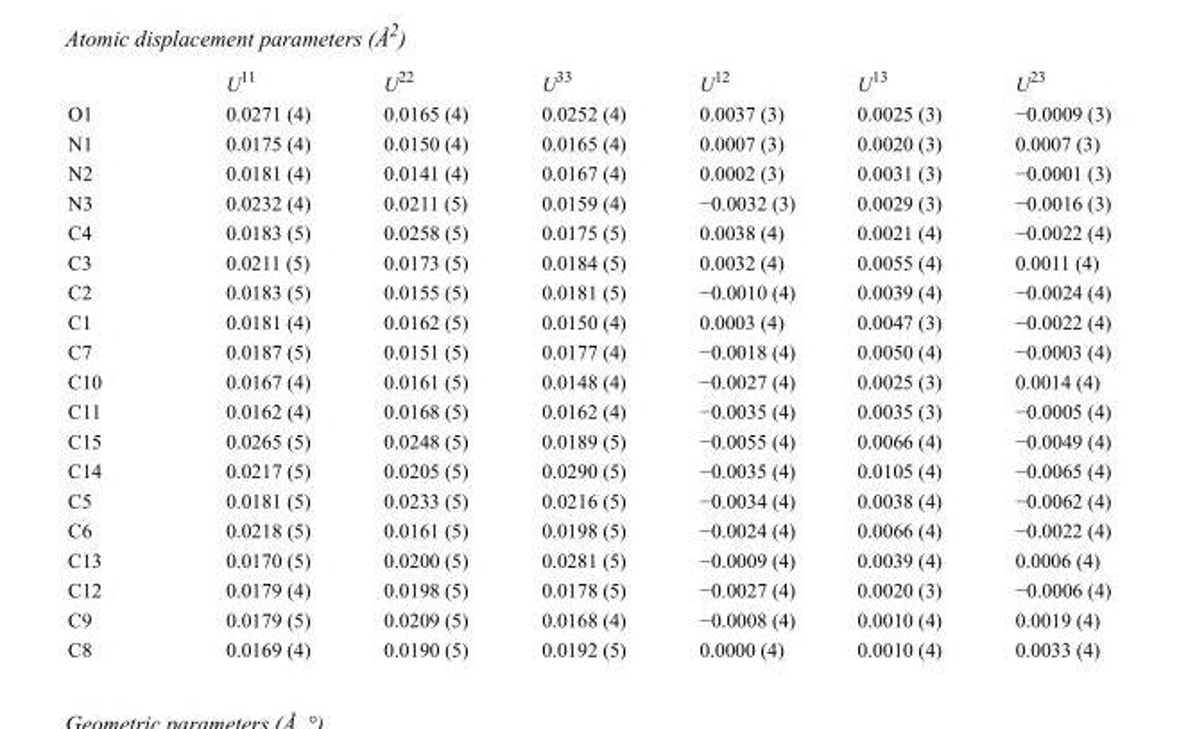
<table><thead><tr><td></td><td>U<sup>11</sup></td><td>U<sup>22</sup></td><td>U<sup>33</sup></td><td>U<sup>12</sup></td><td>U<sup>13</sup></td><td>U<sup>23</sup></td></tr></thead><tbody><tr><td>O1</td><td>0.0271 (4)</td><td>0.0165 (4)</td><td>0.0252 (4)</td><td>0.0037 (3)</td><td>0.0025 (3)</td><td>−0.0009 (3)</td></tr><tr><td>N1</td><td>0.0175 (4)</td><td>0.0150 (4)</td><td>0.0165 (4)</td><td>0.0007 (3)</td><td>0.0020 (3)</td><td>0.0007 (3)</td></tr><tr><td>N2</td><td>0.0181 (4)</td><td>0.0141 (4)</td><td>0.0167 (4)</td><td>0.0002 (3)</td><td>0.0031 (3)</td><td>−0.0001 (3)</td></tr><tr><td>N3</td><td>0.0232 (4)</td><td>0.0211 (5)</td><td>0.0159 (4)</td><td>−0.0032 (3)</td><td>0.0029 (3)</td><td>−0.0016 (3)</td></tr><tr><td>C4</td><td>0.0183 (5)</td><td>0.0258 (5)</td><td>0.0175 (5)</td><td>0.0038 (4)</td><td>0.0021 (4)</td><td>−0.0022 (4)</td></tr><tr><td>C3</td><td>0.0211 (5)</td><td>0.0173 (5)</td><td>0.0184 (5)</td><td>0.0032 (4)</td><td>0.0055 (4)</td><td>0.0011 (4)</td></tr><tr><td>C2</td><td>0.0183 (5)</td><td>0.0155 (5)</td><td>0.0181 (5)</td><td>−0.0010 (4)</td><td>0.0039 (4)</td><td>−0.0024 (4)</td></tr><tr><td>C1</td><td>0.0181 (4)</td><td>0.0162 (5)</td><td>0.0150 (4)</td><td>0.0003 (4)</td><td>0.0047 (3)</td><td>−0.0022 (4)</td></tr><tr><td>C7</td><td>0.0187 (5)</td><td>0.0151 (5)</td><td>0.0177 (4)</td><td>−0.0018 (4)</td><td>0.0050 (4)</td><td>−0.0003 (4)</td></tr><tr><td>C10</td><td>0.0167 (4)</td><td>0.0161 (5)</td><td>0.0148 (4)</td><td>−0.0027 (4)</td><td>0.0025 (3)</td><td>0.0014 (4)</td></tr><tr><td>C11</td><td>0.0162 (4)</td><td>0.0168 (5)</td><td>0.0162 (4)</td><td>−0.0035 (4)</td><td>0.0035 (3)</td><td>−0.0005 (4)</td></tr><tr><td>C15</td><td>0.0265 (5)</td><td>0.0248 (5)</td><td>0.0189 (5)</td><td>−0.0055 (4)</td><td>0.0066 (4)</td><td>−0.0049 (4)</td></tr><tr><td>C14</td><td>0.0217 (5)</td><td>0.0205 (5)</td><td>0.0290 (5)</td><td>−0.0035 (4)</td><td>0.0105 (4)</td><td>−0.0065 (4)</td></tr><tr><td>C5</td><td>0.0181 (5)</td><td>0.0233 (5)</td><td>0.0216 (5)</td><td>−0.0034 (4)</td><td>0.0038 (4)</td><td>−0.0062 (4)</td></tr><tr><td>C6</td><td>0.0218 (5)</td><td>0.0161 (5)</td><td>0.0198 (5)</td><td>−0.0024 (4)</td><td>0.0066 (4)</td><td>−0.0022 (4)</td></tr><tr><td>C13</td><td>0.0170 (5)</td><td>0.0200 (5)</td><td>0.0281 (5)</td><td>−0.0009 (4)</td><td>0.0039 (4)</td><td>0.0006 (4)</td></tr><tr><td>C12</td><td>0.0179 (4)</td><td>0.0198 (5)</td><td>0.0178 (5)</td><td>−0.0027 (4)</td><td>0.0020 (3)</td><td>−0.0006 (4)</td></tr><tr><td>C9</td><td>0.0179 (5)</td><td>0.0209 (5)</td><td>0.0168 (4)</td><td>−0.0008 (4)</td><td>0.0010 (4)</td><td>0.0019 (4)</td></tr><tr><td>C8</td><td>0.0169 (4)</td><td>0.0190 (5)</td><td>0.0192 (5)</td><td>0.0000 (4)</td><td>0.0010 (4)</td><td>0.0033 (4)</td></tr></tbody></table>